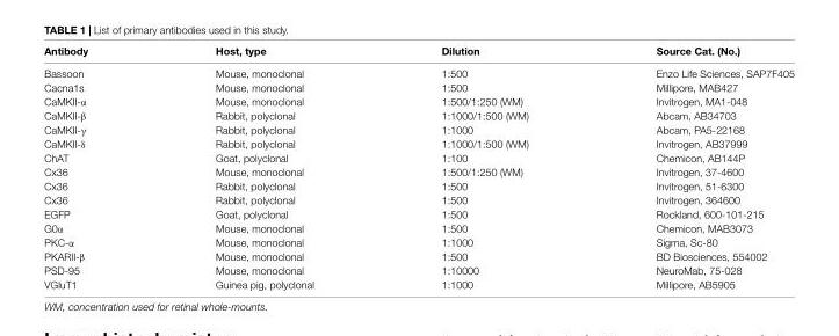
<table><thead><tr><td>Antibody</td><td>Host, type</td><td>Dilution</td><td>Source Cat. (No.)</td></tr></thead><tbody><tr><td>Bassoon</td><td>Mouse, monoclonal</td><td>1:500</td><td>Enzo Life Sciences, SAP7F405</td></tr><tr><td>Cacna1s</td><td>Mouse, monoclonal</td><td>1:500</td><td>Millipore, MAB427</td></tr><tr><td>CaMKII-α</td><td>Mouse, monoclonal</td><td>1:500/1:250 (WM)</td><td>Invitrogen, MA1-048</td></tr><tr><td>CaMKII-β</td><td>Rabbit, polyclonal</td><td>1:1000/1:500 (WM)</td><td>Abcam, AB34703</td></tr><tr><td>CaMKII-γ</td><td>Rabbit, polyclonal</td><td>1:1000</td><td>Abcam, PA5-22168</td></tr><tr><td>CaMKII-δ</td><td>Rabbit, polyclonal</td><td>1:1000/1:500 (WM)</td><td>Invitrogen, AB37999</td></tr><tr><td>ChAT</td><td>Goat, polyclonal</td><td>1:100</td><td>Chemicon, AB144P</td></tr><tr><td>Cx36</td><td>Mouse, monoclonal</td><td>1:500/1:250 (WM)</td><td>Invitrogen, 37-4600</td></tr><tr><td>Cx36</td><td>Rabbit, polyclonal</td><td>1:500</td><td>Invitrogen, 51-6300</td></tr><tr><td>Cx36</td><td>Rabbit, polyclonal</td><td>1:500</td><td>Invitrogen, 364600</td></tr><tr><td>EGFP</td><td>Goat, polyclonal</td><td>1:500</td><td>Rockland, 600-101-215</td></tr><tr><td>G0α</td><td>Mouse, monoclonal</td><td>1:500</td><td>Chemicon, MAB3073</td></tr><tr><td>PKC-α</td><td>Mouse, monoclonal</td><td>1:1000</td><td>Sigma, Sc-80</td></tr><tr><td>PKARII-β</td><td>Mouse, monoclonal</td><td>1:500</td><td>BD Biosciences, 554002</td></tr><tr><td>PSD-95</td><td>Mouse, monoclonal</td><td>1:10000</td><td>NeuroMab, 75-028</td></tr><tr><td>VGluT1</td><td>Guinea pig, polyclonal</td><td>1:1000</td><td>Millipore, AB5905</td></tr></tbody></table>